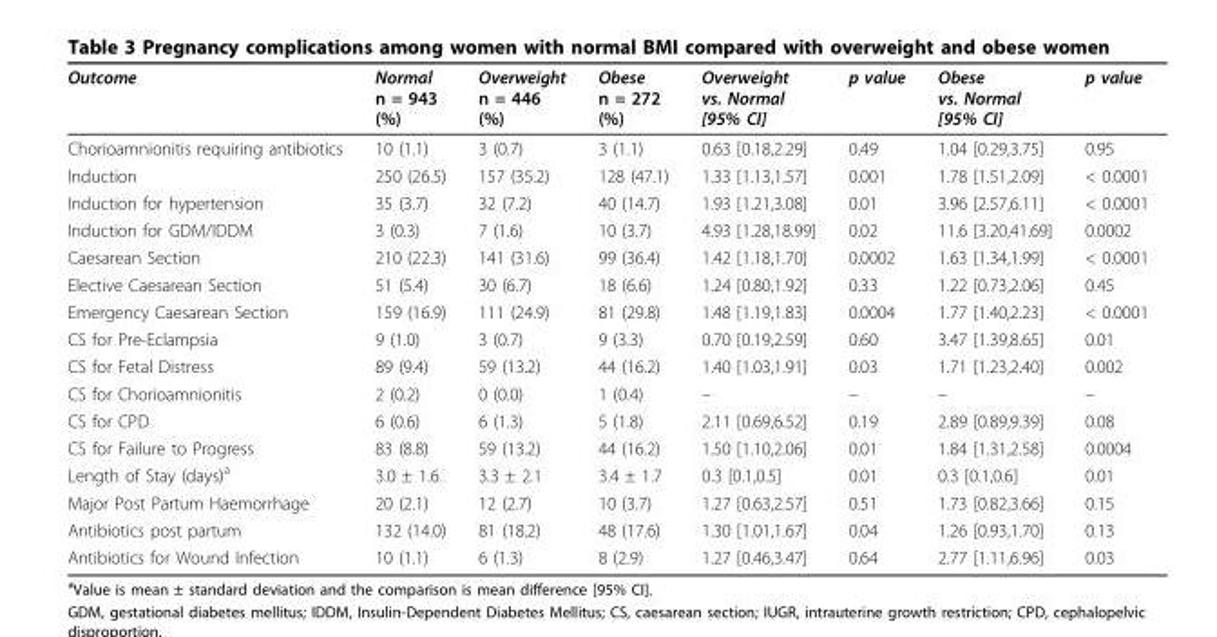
<table><thead><tr><td>Outcome</td><td>Normal n = 943 (%)</td><td>Overweight n = 446 (%)</td><td>Obese n = 272 (%)</td><td>Overweight vs. Normal [95% CI]</td><td>p value</td><td>Obese vs. Normal [95% CI]</td><td>p value</td></tr></thead><tbody><tr><td>Chorioamnionitis requiring antibiotics</td><td>10 (1.1)</td><td>3 (0.7)</td><td>3 (1.1)</td><td>0.63 [0.18,2.29]</td><td>0.49</td><td>1.04 [0.29,3.75]</td><td>0.95</td></tr><tr><td>Induction</td><td>250 (26.5)</td><td>157 (35.2)</td><td>128 (47.1)</td><td>1.33 [1.13,1.57]</td><td>0.001</td><td>1.78 [1.51,2.09]</td><td>&lt; 0.0001</td></tr><tr><td>Induction for hypertension</td><td>35 (3.7)</td><td>32 (7.2)</td><td>40 (14.7)</td><td>1.93 [1.21,3.08]</td><td>0.01</td><td>3.96 [2.57,6.11]</td><td>&lt; 0.0001</td></tr><tr><td>Induction for GDM/IDDM</td><td>3 (0.3)</td><td>7 (1.6)</td><td>10 (3.7)</td><td>4.93 [1.28,18.99]</td><td>0.02</td><td>11.6 [3.20,41.69]</td><td>0.0002</td></tr><tr><td>Caesarean Section</td><td>210 (22.3)</td><td>141 (31.6)</td><td>99 (36.4)</td><td>1.42 [1.18,1.70]</td><td>0.0002</td><td>1.63 [1.34,1.99]</td><td>&lt; 0.0001</td></tr><tr><td>Elective Caesarean Section</td><td>51 (5.4)</td><td>30 (6.7)</td><td>18 (6.6)</td><td>1.24 [0.80,1.92]</td><td>0.33</td><td>1.22 [0.73,2.06]</td><td>0.45</td></tr><tr><td>Emergency Caesarean Section</td><td>159 (16.9)</td><td>111 (24.9)</td><td>81 (29.8)</td><td>1.48 [1.19,1.83]</td><td>0.0004</td><td>1.77 [1.40,2.23]</td><td>&lt; 0.0001</td></tr><tr><td>CS for Pre-Eclampsia</td><td>9 (1.0)</td><td>3 (0.7)</td><td>9 (3.3)</td><td>0.70 [0.19,2.59]</td><td>0.60</td><td>3.47 [1.39,8.65]</td><td>0.01</td></tr><tr><td>CS for Fetal Distress</td><td>89 (9.4)</td><td>59 (13.2)</td><td>44 (16.2)</td><td>1.40 [1.03,1.91]</td><td>0.03</td><td>1.71 [1.23,2.40]</td><td>0.002</td></tr><tr><td>CS for Chorioamnionitis</td><td>2 (0.2)</td><td>0 (0.0)</td><td>1 (0.4)</td><td>–</td><td>–</td><td>–</td><td>–</td></tr><tr><td>CS for CPD</td><td>6 (0.6)</td><td>6 (1.3)</td><td>5 (1.8)</td><td>2.11 [0.69,6.52]</td><td>0.19</td><td>2.89 [0.89,9.39]</td><td>0.08</td></tr><tr><td>CS for Failure to Progress</td><td>83 (8.8)</td><td>59 (13.2)</td><td>44 (16.2)</td><td>1.50 [1.10,2.06]</td><td>0.01</td><td>1.84 [1.31,2.58]</td><td>0.0004</td></tr><tr><td>Length of Stay (days)<sup>a</sup></td><td>3.0 ± 1.6</td><td>3.3 ± 2.1</td><td>3.4 ± 1.7</td><td>0.3 [0.1,0.5]</td><td>0.01</td><td>0.3 [0.1,0.6]</td><td>0.01</td></tr><tr><td>Major Post Partum Haemorrhage</td><td>20 (2.1)</td><td>12 (2.7)</td><td>10 (3.7)</td><td>1.27 [0.63,2.57]</td><td>0.51</td><td>1.73 [0.82,3.66]</td><td>0.15</td></tr><tr><td>Antibiotics post partum</td><td>132 (14.0)</td><td>81 (18.2)</td><td>48 (17.6)</td><td>1.30 [1.01,1.67]</td><td>0.04</td><td>1.26 [0.93,1.70]</td><td>0.13</td></tr><tr><td>Antibiotics for Wound Infection</td><td>10 (1.1)</td><td>6 (1.3)</td><td>8 (2.9)</td><td>1.27 [0.46,3.47]</td><td>0.64</td><td>2.77 [1.11,6.96]</td><td>0.03</td></tr></tbody></table>